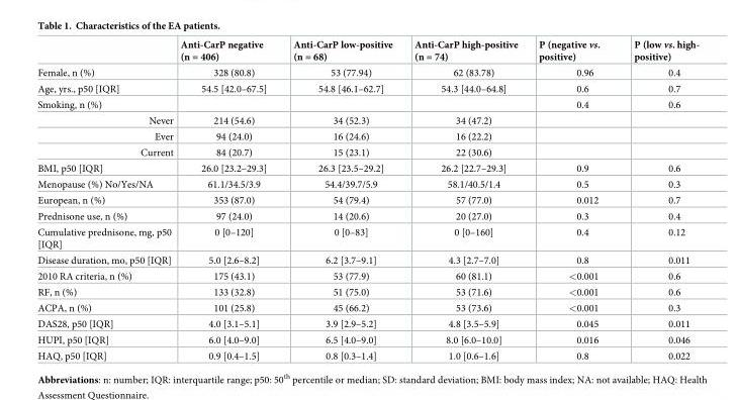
<table><thead><tr><td></td><td>Anti-CarP negative (n = 406)</td><td>Anti-CarP low-positive (n = 68)</td><td>Anti-CarP high-positive (n = 74)</td><td>P (negative vs. positive)</td><td>P (low vs. high- positive)</td></tr></thead><tbody><tr><td>Female, n (%)</td><td>328 (80.8)</td><td>53 (77.94)</td><td>62 (83.78)</td><td>0.96</td><td>0.4</td></tr><tr><td>Age, yrs., p50 [IQR]</td><td>54.5 [42.0–67.5]</td><td>54.8 [46.1–62.7]</td><td>54.3 [44.0–64.8]</td><td>0.6</td><td>0.7</td></tr><tr><td>Smoking, n (%)</td><td></td><td></td><td></td><td>0.4</td><td>0.6</td></tr><tr><td>Never</td><td>214 (54.6)</td><td>34 (52.3)</td><td>34 (47.2)</td><td></td><td></td></tr><tr><td>Ever</td><td>94 (24.0)</td><td>16 (24.6)</td><td>16 (22.2)</td><td></td><td></td></tr><tr><td>Current</td><td>84 (20.7)</td><td>15 (23.1)</td><td>22 (30.6)</td><td></td><td></td></tr><tr><td>BMI, p50 [IQR]</td><td>26.0 [23.2–29.3]</td><td>26.3 [23.5–29.2]</td><td>26.2 [22.7–29.3]</td><td>0.9</td><td>0.6</td></tr><tr><td>Menopause (%) No/Yes/NA</td><td>61.1/34.5/3.9</td><td>54.4/39.7/5.9</td><td>58.1/40.5/1.4</td><td>0.5</td><td>0.3</td></tr><tr><td>European, n (%)</td><td>353 (87.0)</td><td>54 (79.4)</td><td>57 (77.0)</td><td>0.012</td><td>0.7</td></tr><tr><td>Prednisone use, n (%)</td><td>97 (24.0)</td><td>14 (20.6)</td><td>20 (27.0)</td><td>0.3</td><td>0.4</td></tr><tr><td>Cumulative prednisone, mg, p50 [IQR]</td><td>0 [0–120]</td><td>0 [0–83]</td><td>0 [0–160]</td><td>0.4</td><td>0.12</td></tr><tr><td>Disease duration, mo, p50 [IQR]</td><td>5.0 [2.6–8.2]</td><td>6.2 [3.7–9.1]</td><td>4.3 [2.7–7.0]</td><td>0.8</td><td>0.011</td></tr><tr><td>2010 RA criteria, n (%)</td><td>175 (43.1)</td><td>53 (77.9)</td><td>60 (81.1)</td><td>&lt;0.001</td><td>0.6</td></tr><tr><td>RF, n (%)</td><td>133 (32.8)</td><td>51 (75.0)</td><td>53 (71.6)</td><td>&lt;0.001</td><td>0.6</td></tr><tr><td>ACPA, n (%)</td><td>101 (25.8)</td><td>45 (66.2)</td><td>53 (73.6)</td><td>&lt;0.001</td><td>0.3</td></tr><tr><td>DAS28, p50 [IQR]</td><td>4.0 [3.1–5.1]</td><td>3.9 [2.9–5.2]</td><td>4.8 [3.5–5.9]</td><td>0.045</td><td>0.011</td></tr><tr><td>HUPI, p50 [IQR]</td><td>6.0 [4.0–9.0]</td><td>6.5 [4.0–9.0]</td><td>8.0 [6.0–10.0]</td><td>0.016</td><td>0.046</td></tr><tr><td>HAQ, p50 [IQR]</td><td>0.9 [0.4–1.5]</td><td>0.8 [0.3–1.4]</td><td>1.0 [0.6–1.6]</td><td>0.8</td><td>0.022</td></tr></tbody></table>